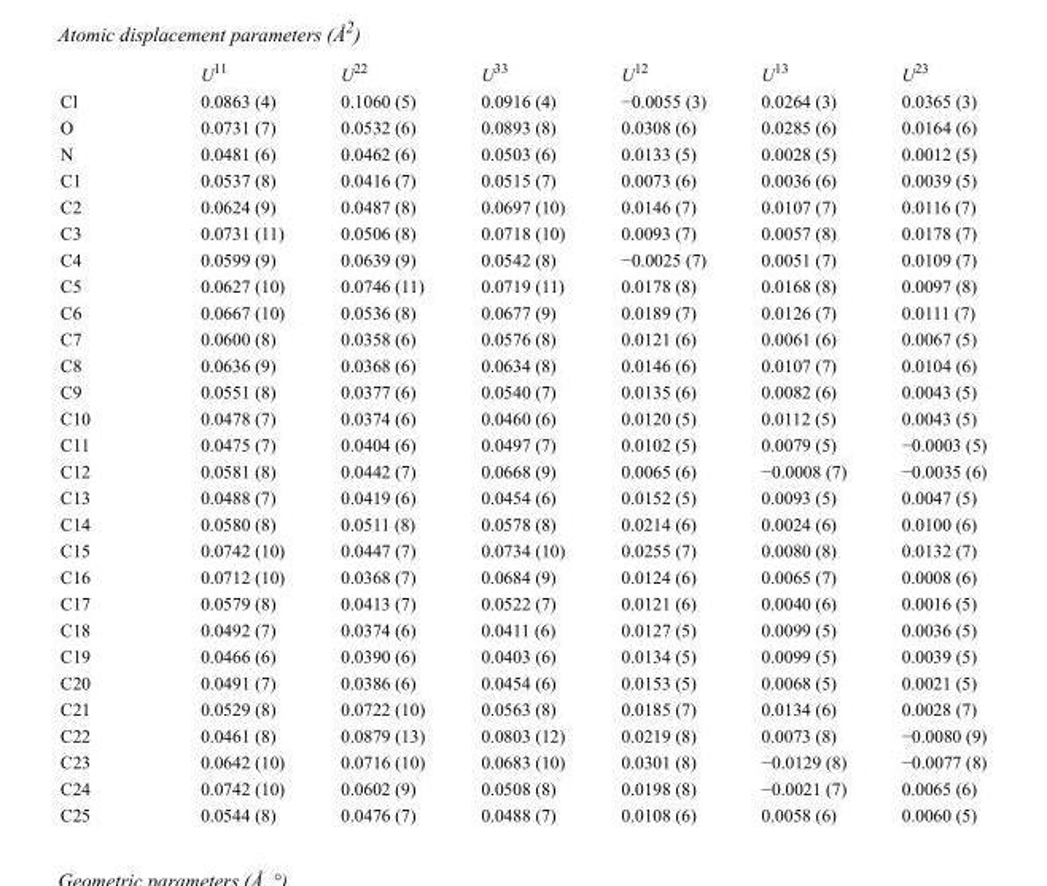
<table><thead><tr><td></td><td>U<sup>11</sup></td><td>U<sup>22</sup></td><td>U<sup>33</sup></td><td>U<sup>12</sup></td><td>U<sup>13</sup></td><td>U<sup>23</sup></td></tr></thead><tbody><tr><td>Cl</td><td>0.0863 (4)</td><td>0.1060 (5)</td><td>0.0916 (4)</td><td>−0.0055 (3)</td><td>0.0264 (3)</td><td>0.0365 (3)</td></tr><tr><td>O</td><td>0.0731 (7)</td><td>0.0532 (6)</td><td>0.0893 (8)</td><td>0.0308 (6)</td><td>0.0285 (6)</td><td>0.0164 (6)</td></tr><tr><td>N</td><td>0.0481 (6)</td><td>0.0462 (6)</td><td>0.0503 (6)</td><td>0.0133 (5)</td><td>0.0028 (5)</td><td>0.0012 (5)</td></tr><tr><td>C1</td><td>0.0537 (8)</td><td>0.0416 (7)</td><td>0.0515 (7)</td><td>0.0073 (6)</td><td>0.0036 (6)</td><td>0.0039 (5)</td></tr><tr><td>C2</td><td>0.0624 (9)</td><td>0.0487 (8)</td><td>0.0697 (10)</td><td>0.0146 (7)</td><td>0.0107 (7)</td><td>0.0116 (7)</td></tr><tr><td>C3</td><td>0.0731 (11)</td><td>0.0506 (8)</td><td>0.0718 (10)</td><td>0.0093 (7)</td><td>0.0057 (8)</td><td>0.0178 (7)</td></tr><tr><td>C4</td><td>0.0599 (9)</td><td>0.0639 (9)</td><td>0.0542 (8)</td><td>−0.0025 (7)</td><td>0.0051 (7)</td><td>0.0109 (7)</td></tr><tr><td>C5</td><td>0.0627 (10)</td><td>0.0746 (11)</td><td>0.0719 (11)</td><td>0.0178 (8)</td><td>0.0168 (8)</td><td>0.0097 (8)</td></tr><tr><td>C6</td><td>0.0667 (10)</td><td>0.0536 (8)</td><td>0.0677 (9)</td><td>0.0189 (7)</td><td>0.0126 (7)</td><td>0.0111 (7)</td></tr><tr><td>C7</td><td>0.0600 (8)</td><td>0.0358 (6)</td><td>0.0576 (8)</td><td>0.0121 (6)</td><td>0.0061 (6)</td><td>0.0067 (5)</td></tr><tr><td>C8</td><td>0.0636 (9)</td><td>0.0368 (6)</td><td>0.0634 (8)</td><td>0.0146 (6)</td><td>0.0107 (7)</td><td>0.0104 (6)</td></tr><tr><td>C9</td><td>0.0551 (8)</td><td>0.0377 (6)</td><td>0.0540 (7)</td><td>0.0135 (6)</td><td>0.0082 (6)</td><td>0.0043 (5)</td></tr><tr><td>C10</td><td>0.0478 (7)</td><td>0.0374 (6)</td><td>0.0460 (6)</td><td>0.0120 (5)</td><td>0.0112 (5)</td><td>0.0043 (5)</td></tr><tr><td>C11</td><td>0.0475 (7)</td><td>0.0404 (6)</td><td>0.0497 (7)</td><td>0.0102 (5)</td><td>0.0079 (5)</td><td>−0.0003 (5)</td></tr><tr><td>C12</td><td>0.0581 (8)</td><td>0.0442 (7)</td><td>0.0668 (9)</td><td>0.0065 (6)</td><td>−0.0008 (7)</td><td>−0.0035 (6)</td></tr><tr><td>C13</td><td>0.0488 (7)</td><td>0.0419 (6)</td><td>0.0454 (6)</td><td>0.0152 (5)</td><td>0.0093 (5)</td><td>0.0047 (5)</td></tr><tr><td>C14</td><td>0.0580 (8)</td><td>0.0511 (8)</td><td>0.0578 (8)</td><td>0.0214 (6)</td><td>0.0024 (6)</td><td>0.0100 (6)</td></tr><tr><td>C15</td><td>0.0742 (10)</td><td>0.0447 (7)</td><td>0.0734 (10)</td><td>0.0255 (7)</td><td>0.0080 (8)</td><td>0.0132 (7)</td></tr><tr><td>C16</td><td>0.0712 (10)</td><td>0.0368 (7)</td><td>0.0684 (9)</td><td>0.0124 (6)</td><td>0.0065 (7)</td><td>0.0008 (6)</td></tr><tr><td>C17</td><td>0.0579 (8)</td><td>0.0413 (7)</td><td>0.0522 (7)</td><td>0.0121 (6)</td><td>0.0040 (6)</td><td>0.0016 (5)</td></tr><tr><td>C18</td><td>0.0492 (7)</td><td>0.0374 (6)</td><td>0.0411 (6)</td><td>0.0127 (5)</td><td>0.0099 (5)</td><td>0.0036 (5)</td></tr><tr><td>C19</td><td>0.0466 (6)</td><td>0.0390 (6)</td><td>0.0403 (6)</td><td>0.0134 (5)</td><td>0.0099 (5)</td><td>0.0039 (5)</td></tr><tr><td>C20</td><td>0.0491 (7)</td><td>0.0386 (6)</td><td>0.0454 (6)</td><td>0.0153 (5)</td><td>0.0068 (5)</td><td>0.0021 (5)</td></tr><tr><td>C21</td><td>0.0529 (8)</td><td>0.0722 (10)</td><td>0.0563 (8)</td><td>0.0185 (7)</td><td>0.0134 (6)</td><td>0.0028 (7)</td></tr><tr><td>C22</td><td>0.0461 (8)</td><td>0.0879 (13)</td><td>0.0803 (12)</td><td>0.0219 (8)</td><td>0.0073 (8)</td><td>−0.0080 (9)</td></tr><tr><td>C23</td><td>0.0642 (10)</td><td>0.0716 (10)</td><td>0.0683 (10)</td><td>0.0301 (8)</td><td>−0.0129 (8)</td><td>−0.0077 (8)</td></tr><tr><td>C24</td><td>0.0742 (10)</td><td>0.0602 (9)</td><td>0.0508 (8)</td><td>0.0198 (8)</td><td>−0.0021 (7)</td><td>0.0065 (6)</td></tr><tr><td>C25</td><td>0.0544 (8)</td><td>0.0476 (7)</td><td>0.0488 (7)</td><td>0.0108 (6)</td><td>0.0058 (6)</td><td>0.0060 (5)</td></tr></tbody></table>